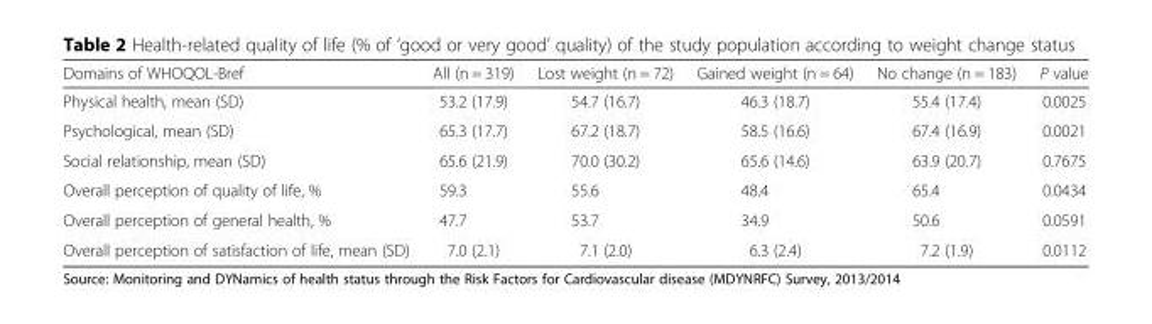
<table><thead><tr><td>Domains of WHOQOL-Bref</td><td>All (n = 319)</td><td>Lost weight (n = 72)</td><td>Gained weight (n = 64)</td><td>No change (n = 183)</td><td>P value</td></tr></thead><tbody><tr><td>Physical health, mean (SD)</td><td>53.2 (17.9)</td><td>54.7 (16.7)</td><td>46.3 (18.7)</td><td>55.4 (17.4)</td><td>0.0025</td></tr><tr><td>Psychological, mean (SD)</td><td>65.3 (17.7)</td><td>67.2 (18.7)</td><td>58.5 (16.6)</td><td>67.4 (16.9)</td><td>0.0021</td></tr><tr><td>Social relationship, mean (SD)</td><td>65.6 (21.9)</td><td>70.0 (30.2)</td><td>65.6 (14.6)</td><td>63.9 (20.7)</td><td>0.7675</td></tr><tr><td>Overall perception of quality of life, %</td><td>59.3</td><td>55.6</td><td>48.4</td><td>65.4</td><td>0.0434</td></tr><tr><td>Overall perception of general health, %</td><td>47.7</td><td>53.7</td><td>34.9</td><td>50.6</td><td>0.0591</td></tr><tr><td>Overall perception of satisfaction of life, mean (SD)</td><td>7.0 (2.1)</td><td>7.1 (2.0)</td><td>6.3 (2.4)</td><td>7.2 (1.9)</td><td>0.0112</td></tr></tbody></table>